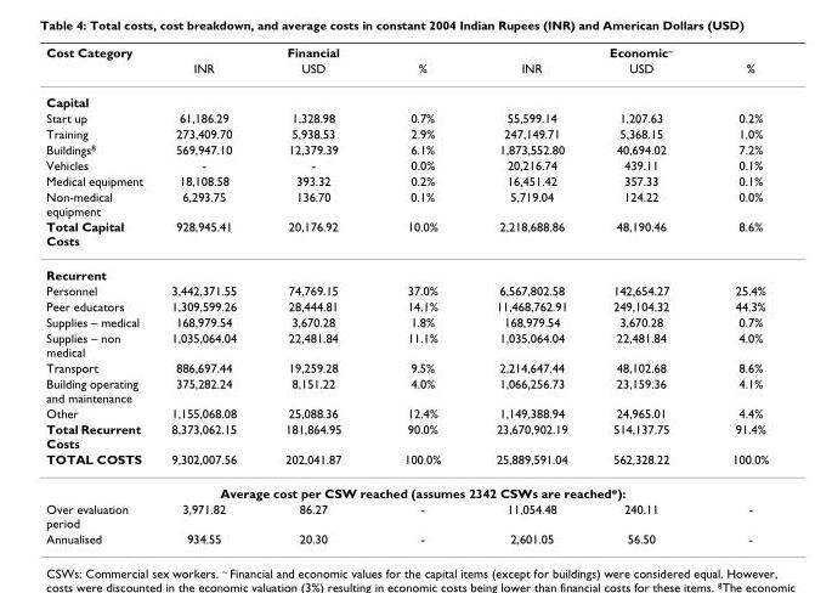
<table><thead><tr><td rowspan="2">Cost Category</td><td colspan="3">Financial</td><td colspan="3">Economic<sup>~</sup></td></tr><tr><td>INR</td><td>USD</td><td>%</td><td>INR</td><td>USD</td><td>%</td></tr></thead><tbody><tr><td colspan="7">Capital</td></tr><tr><td>Start up</td><td>61,186.29</td><td>1,328.98</td><td>0.7%</td><td>55,599.14</td><td>1,207.63</td><td>0.2%</td></tr><tr><td>Training</td><td>273,409.70</td><td>5,938.53</td><td>2.9%</td><td>247,149.71</td><td>5,368.15</td><td>1.0%</td></tr><tr><td>Buildings<sup>8</sup></td><td>569,947.10</td><td>12,379.39</td><td>6.1%</td><td>1,873,552.80</td><td>40,694.02</td><td>7.2%</td></tr><tr><td>Vehicles</td><td>-</td><td>-</td><td>0.0%</td><td>20,216.74</td><td>439.11</td><td>0.1%</td></tr><tr><td>Medical equipment</td><td>18,108.58</td><td>393.32</td><td>0.2%</td><td>16,451.42</td><td>357.33</td><td>0.1%</td></tr><tr><td>Non-medical equipment</td><td>6,293.75</td><td>136.70</td><td>0.1%</td><td>5,719.04</td><td>124.22</td><td>0.0%</td></tr><tr><td>Total Capital Costs</td><td>928,945.41</td><td>20,176.92</td><td>10.0%</td><td>2,218,688.86</td><td>48,190.46</td><td>8.6%</td></tr><tr><td colspan="7">Recurrent</td></tr><tr><td>Personnel</td><td>3,442,371.55</td><td>74,769.15</td><td>37.0%</td><td>6,567,802.58</td><td>142,654.27</td><td>25.4%</td></tr><tr><td>Peer educators</td><td>1,309,599.26</td><td>28,444.81</td><td>14.1%</td><td>11,468,762.91</td><td>249,104.32</td><td>44.3%</td></tr><tr><td>Supplies – medical</td><td>168,979.54</td><td>3,670.28</td><td>1.8%</td><td>168,979.54</td><td>3,670.28</td><td>0.7%</td></tr><tr><td>Supplies – non medical</td><td>1,035,064.04</td><td>22,481.84</td><td>11.1%</td><td>1,035,064.04</td><td>22,481.84</td><td>4.0%</td></tr><tr><td>Transport</td><td>886,697.44</td><td>19,259.28</td><td>9.5%</td><td>2,214,647.44</td><td>48,102.68</td><td>8.6%</td></tr><tr><td>Building operating and maintenance</td><td>375,282.24</td><td>8,151.22</td><td>4.0%</td><td>1,066,256.73</td><td>23,159.36</td><td>4.1%</td></tr><tr><td>Other</td><td>1,155,068.08</td><td>25,088.36</td><td>12.4%</td><td>1,149,388.94</td><td>24,965.01</td><td>4.4%</td></tr><tr><td>Total Recurrent Costs</td><td>8,373,062.15</td><td>181,864.95</td><td>90.0%</td><td>23,670,902.19</td><td>514,137.75</td><td>91.4%</td></tr><tr><td>TOTAL COSTS</td><td>9,302,007.56</td><td>202,041.87</td><td>100.0%</td><td>25,889,591.04</td><td>562,328.22</td><td>100.0%</td></tr><tr><td colspan="7">Average cost per CSW reached (assumes 2342 CSWs are reached*):</td></tr><tr><td>Over evaluation period</td><td>3,971.82</td><td>86.27</td><td>-</td><td>11,054.48</td><td>240.11</td><td>-</td></tr><tr><td>Annualised</td><td>934.55</td><td>20.30</td><td>-</td><td>2,601.05</td><td>56.50</td><td>-</td></tr></tbody></table>